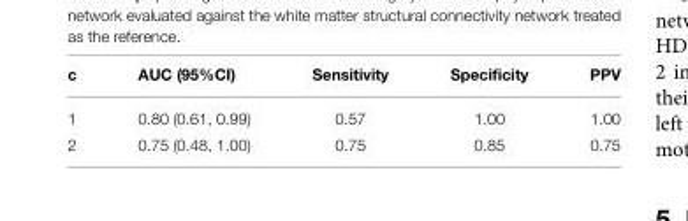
<table><thead><tr><td>c</td><td>AUC (95%CI)</td><td>Sensitivity</td><td>Specificity</td><td>PPV</td></tr></thead><tbody><tr><td>1</td><td>0.80 (0.61, 0.99)</td><td>0.57</td><td>1.00</td><td>1.00</td></tr><tr><td>2</td><td>0.75 (0.48, 1.00)</td><td>0.75</td><td>0.85</td><td>0.75</td></tr></tbody></table>